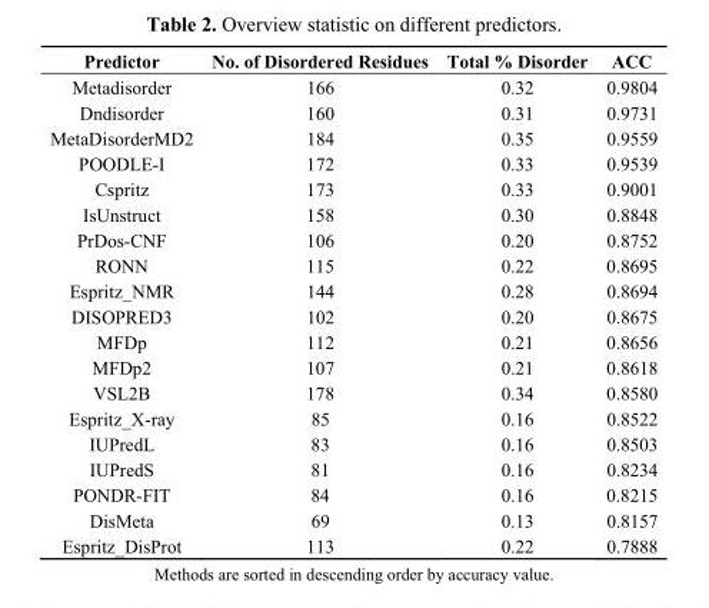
<table><thead><tr><td>Predictor</td><td>No. of Disordered Residues</td><td>Total % Disorder</td><td>ACC</td></tr></thead><tbody><tr><td>Metadisorder</td><td>166</td><td>0.32</td><td>0.9804</td></tr><tr><td>Dndisorder</td><td>160</td><td>0.31</td><td>0.9731</td></tr><tr><td>MetaDisorderMD2</td><td>184</td><td>0.35</td><td>0.9559</td></tr><tr><td>POODLE-I</td><td>172</td><td>0.33</td><td>0.9539</td></tr><tr><td>Cspritz</td><td>173</td><td>0.33</td><td>0.9001</td></tr><tr><td>IsUnstruct</td><td>158</td><td>0.30</td><td>0.8848</td></tr><tr><td>PrDos-CNF</td><td>106</td><td>0.20</td><td>0.8752</td></tr><tr><td>RONN</td><td>115</td><td>0.22</td><td>0.8695</td></tr><tr><td>Espritz_NMR</td><td>144</td><td>0.28</td><td>0.8694</td></tr><tr><td>DISOPRED3</td><td>102</td><td>0.20</td><td>0.8675</td></tr><tr><td>MFDp</td><td>112</td><td>0.21</td><td>0.8656</td></tr><tr><td>MFDp2</td><td>107</td><td>0.21</td><td>0.8618</td></tr><tr><td>VSL2B</td><td>178</td><td>0.34</td><td>0.8580</td></tr><tr><td>Espritz_X-ray</td><td>85</td><td>0.16</td><td>0.8522</td></tr><tr><td>IUPredL</td><td>83</td><td>0.16</td><td>0.8503</td></tr><tr><td>IUPredS</td><td>81</td><td>0.16</td><td>0.8234</td></tr><tr><td>PONDR-FIT</td><td>84</td><td>0.16</td><td>0.8215</td></tr><tr><td>DisMeta</td><td>69</td><td>0.13</td><td>0.8157</td></tr><tr><td>Espritz_DisProt</td><td>113</td><td>0.22</td><td>0.7888</td></tr></tbody></table>